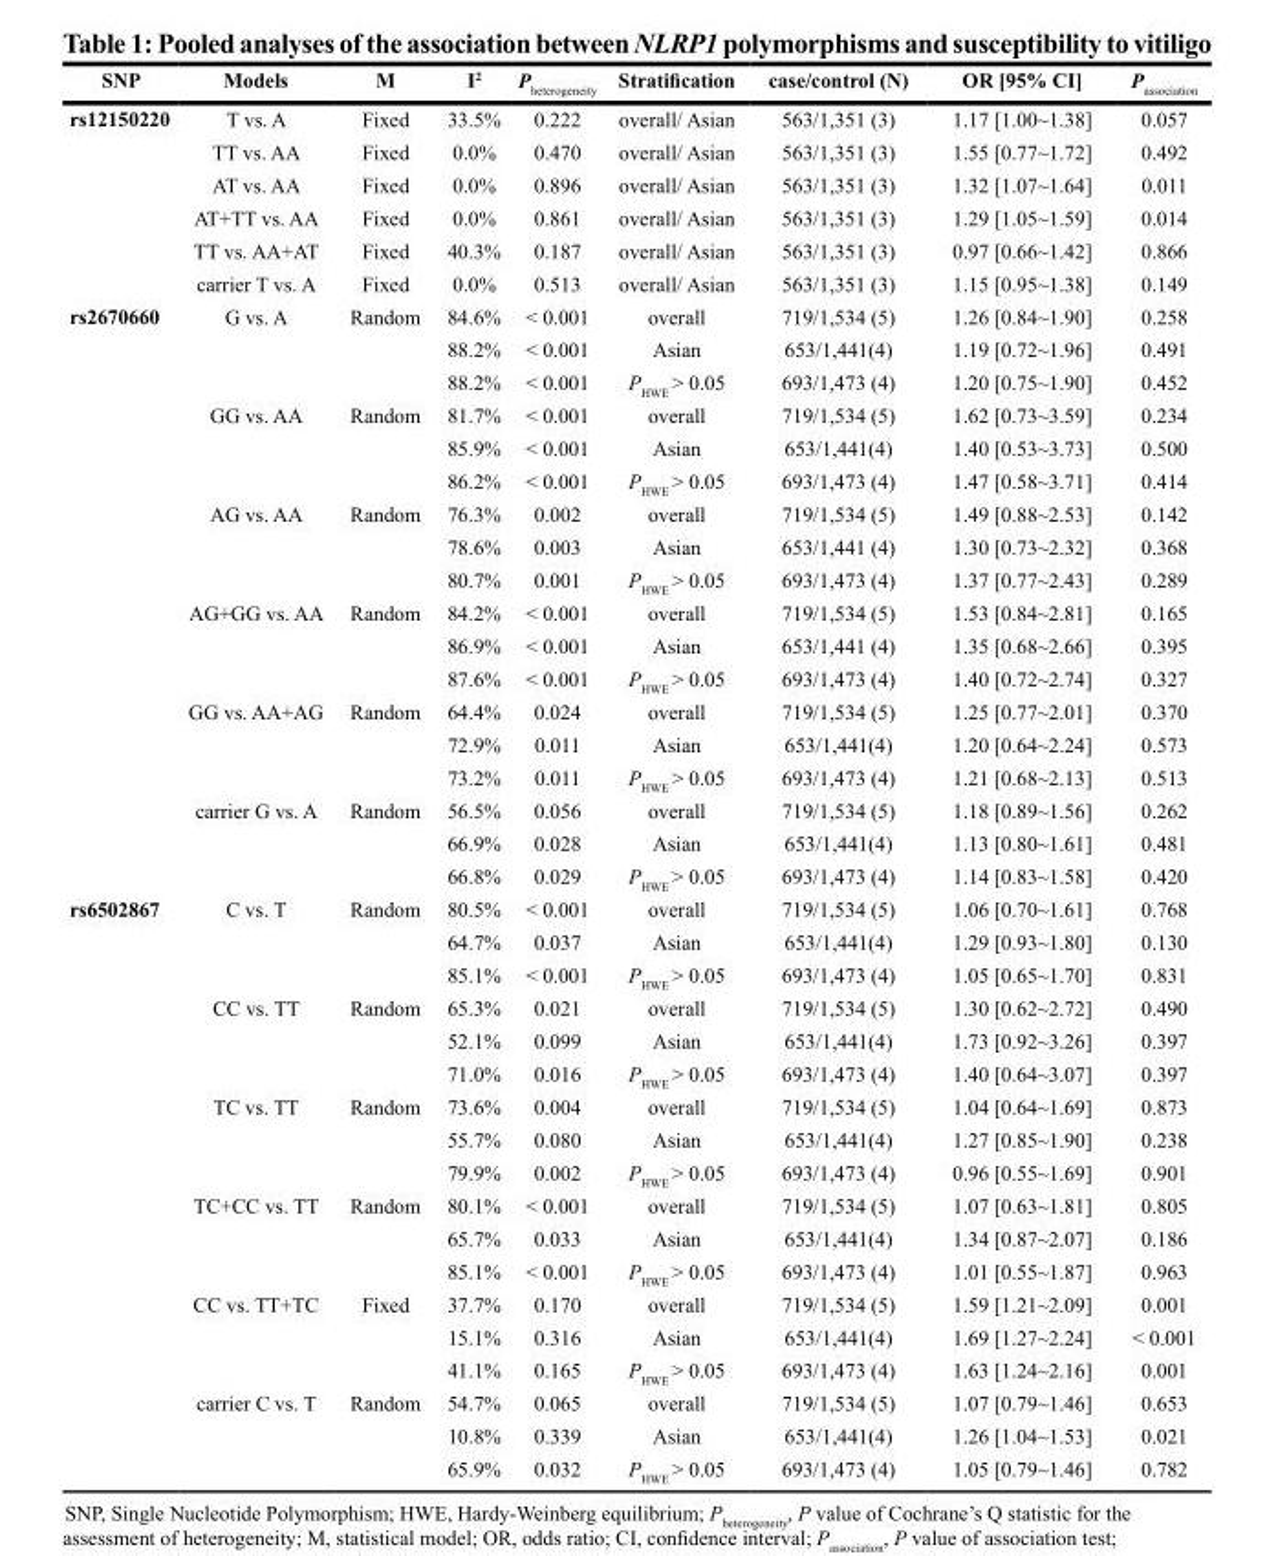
<table><thead><tr><td>SNP</td><td>Models</td><td>M</td><td>I<sup>2</sup></td><td>P<sub>heterogeneity</sub></td><td>Stratification</td><td>case/control (N)</td><td>OR [95% CI]</td><td>P<sub>association</sub></td></tr></thead><tbody><tr><td rowspan="6">rs12150220</td><td>T vs. A</td><td>Fixed</td><td>33.5%</td><td>0.222</td><td>overall/ Asian</td><td>563/1,351 (3)</td><td>1.17 [1.00~1.38]</td><td>0.057</td></tr><tr><td>TT vs. AA</td><td>Fixed</td><td>0.0%</td><td>0.470</td><td>overall/ Asian</td><td>563/1,351 (3)</td><td>1.55 [0.77~1.72]</td><td>0.492</td></tr><tr><td>AT vs. AA</td><td>Fixed</td><td>0.0%</td><td>0.896</td><td>overall/ Asian</td><td>563/1,351 (3)</td><td>1.32 [1.07~1.64]</td><td>0.011</td></tr><tr><td>AT+TT vs. AA</td><td>Fixed</td><td>0.0%</td><td>0.861</td><td>overall/ Asian</td><td>563/1,351 (3)</td><td>1.29 [1.05~1.59]</td><td>0.014</td></tr><tr><td>TT vs. AA+AT</td><td>Fixed</td><td>40.3%</td><td>0.187</td><td>overall/ Asian</td><td>563/1,351 (3)</td><td>0.97 [0.66~1.42]</td><td>0.866</td></tr><tr><td>carrier T vs. A</td><td>Fixed</td><td>0.0%</td><td>0.513</td><td>overall/ Asian</td><td>563/1,351 (3)</td><td>1.15 [0.95~1.38]</td><td>0.149</td></tr><tr><td rowspan="18">rs2670660</td><td>G vs. A</td><td>Random</td><td>84.6%</td><td>&lt; 0.001</td><td>overall</td><td>719/1,534 (5)</td><td>1.26 [0.84~1.90]</td><td>0.258</td></tr><tr><td></td><td></td><td>88.2%</td><td>&lt; 0.001</td><td>Asian</td><td>653/1,441(4)</td><td>1.19 [0.72~1.96]</td><td>0.491</td></tr><tr><td></td><td></td><td>88.2%</td><td>&lt; 0.001</td><td>P<sub>HWE</sub> &gt; 0.05</td><td>693/1,473 (4)</td><td>1.20 [0.75~1.90]</td><td>0.452</td></tr><tr><td>GG vs. AA</td><td>Random</td><td>81.7%</td><td>&lt; 0.001</td><td>overall</td><td>719/1,534 (5)</td><td>1.62 [0.73~3.59]</td><td>0.234</td></tr><tr><td></td><td></td><td>85.9%</td><td>&lt; 0.001</td><td>Asian</td><td>653/1,441(4)</td><td>1.40 [0.53~3.73]</td><td>0.500</td></tr><tr><td></td><td></td><td>86.2%</td><td>&lt; 0.001</td><td>P<sub>HWE</sub> &gt; 0.05</td><td>693/1,473 (4)</td><td>1.47 [0.58~3.71]</td><td>0.414</td></tr><tr><td>AG vs. AA</td><td>Random</td><td>76.3%</td><td>0.002</td><td>overall</td><td>719/1,534 (5)</td><td>1.49 [0.88~2.53]</td><td>0.142</td></tr><tr><td></td><td></td><td>78.6%</td><td>0.003</td><td>Asian</td><td>653/1,441 (4)</td><td>1.30 [0.73~2.32]</td><td>0.368</td></tr><tr><td></td><td></td><td>80.7%</td><td>0.001</td><td>P<sub>HWE</sub> &gt; 0.05</td><td>693/1,473 (4)</td><td>1.37 [0.77~2.43]</td><td>0.289</td></tr><tr><td>AG+GG vs. AA</td><td>Random</td><td>84.2%</td><td>&lt; 0.001</td><td>overall</td><td>719/1,534 (5)</td><td>1.53 [0.84~2.81]</td><td>0.165</td></tr><tr><td></td><td></td><td>86.9%</td><td>&lt; 0.001</td><td>Asian</td><td>653/1,441 (4)</td><td>1.35 [0.68~2.66]</td><td>0.395</td></tr><tr><td></td><td></td><td>87.6%</td><td>&lt; 0.001</td><td>P<sub>HWE</sub> &gt; 0.05</td><td>693/1,473 (4)</td><td>1.40 [0.72~2.74]</td><td>0.327</td></tr><tr><td>GG vs. AA+AG</td><td>Random</td><td>64.4%</td><td>0.024</td><td>overall</td><td>719/1,534 (5)</td><td>1.25 [0.77~2.01]</td><td>0.370</td></tr><tr><td></td><td></td><td>72.9%</td><td>0.011</td><td>Asian</td><td>653/1,441(4)</td><td>1.20 [0.64~2.24]</td><td>0.573</td></tr><tr><td></td><td></td><td>73.2%</td><td>0.011</td><td>P<sub>HWE</sub> &gt; 0.05</td><td>693/1,473 (4)</td><td>1.21 [0.68~2.13]</td><td>0.513</td></tr><tr><td>carrier G vs. A</td><td>Random</td><td>56.5%</td><td>0.056</td><td>overall</td><td>719/1,534 (5)</td><td>1.18 [0.89~1.56]</td><td>0.262</td></tr><tr><td></td><td></td><td>66.9%</td><td>0.028</td><td>Asian</td><td>653/1,441(4)</td><td>1.13 [0.80~1.61]</td><td>0.481</td></tr><tr><td></td><td></td><td>66.8%</td><td>0.029</td><td>P<sub>HWE</sub> &gt; 0.05</td><td>693/1,473 (4)</td><td>1.14 [0.83~1.58]</td><td>0.420</td></tr><tr><td rowspan="18">rs6502867</td><td>C vs. T</td><td>Random</td><td>80.5%</td><td>&lt; 0.001</td><td>overall</td><td>719/1,534 (5)</td><td>1.06 [0.70~1.61]</td><td>0.768</td></tr><tr><td></td><td></td><td>64.7%</td><td>0.037</td><td>Asian</td><td>653/1,441(4)</td><td>1.29 [0.93~1.80]</td><td>0.130</td></tr><tr><td></td><td></td><td>85.1%</td><td>&lt; 0.001</td><td>P<sub>HWE</sub> &gt; 0.05</td><td>693/1,473 (4)</td><td>1.05 [0.65~1.70]</td><td>0.831</td></tr><tr><td>CC vs. TT</td><td>Random</td><td>65.3%</td><td>0.021</td><td>overall</td><td>719/1,534 (5)</td><td>1.30 [0.62~2.72]</td><td>0.490</td></tr><tr><td></td><td></td><td>52.1%</td><td>0.099</td><td>Asian</td><td>653/1,441(4)</td><td>1.73 [0.92~3.26]</td><td>0.397</td></tr><tr><td></td><td></td><td>71.0%</td><td>0.016</td><td>P<sub>HWE</sub> &gt; 0.05</td><td>693/1,473 (4)</td><td>1.40 [0.64~3.07]</td><td>0.397</td></tr><tr><td>TC vs. TT</td><td>Random</td><td>73.6%</td><td>0.004</td><td>overall</td><td>719/1,534 (5)</td><td>1.04 [0.64~1.69]</td><td>0.873</td></tr><tr><td></td><td></td><td>55.7%</td><td>0.080</td><td>Asian</td><td>653/1,441(4)</td><td>1.27 [0.85~1.90]</td><td>0.238</td></tr><tr><td></td><td></td><td>79.9%</td><td>0.002</td><td>P<sub>HWE</sub> &gt; 0.05</td><td>693/1,473 (4)</td><td>0.96 [0.55~1.69]</td><td>0.901</td></tr><tr><td>TC+CC vs. TT</td><td>Random</td><td>80.1%</td><td>&lt; 0.001</td><td>overall</td><td>719/1,534 (5)</td><td>1.07 [0.63~1.81]</td><td>0.805</td></tr><tr><td></td><td></td><td>65.7%</td><td>0.033</td><td>Asian</td><td>653/1,441(4)</td><td>1.34 [0.87~2.07]</td><td>0.186</td></tr><tr><td></td><td></td><td>85.1%</td><td>&lt; 0.001</td><td>P<sub>HWE</sub> &gt; 0.05</td><td>693/1,473 (4)</td><td>1.01 [0.55~1.87]</td><td>0.963</td></tr><tr><td>CC vs. TT+TC</td><td>Fixed</td><td>37.7%</td><td>0.170</td><td>overall</td><td>719/1,534 (5)</td><td>1.59 [1.21~2.09]</td><td>0.001</td></tr><tr><td></td><td></td><td>15.1%</td><td>0.316</td><td>Asian</td><td>653/1,441(4)</td><td>1.69 [1.27~2.24]</td><td>&lt; 0.001</td></tr><tr><td></td><td></td><td>41.1%</td><td>0.165</td><td>P<sub>HWE</sub> &gt; 0.05</td><td>693/1,473 (4)</td><td>1.63 [1.24~2.16]</td><td>0.001</td></tr><tr><td>carrier C vs. T</td><td>Random</td><td>54.7%</td><td>0.065</td><td>overall</td><td>719/1,534 (5)</td><td>1.07 [0.79~1.46]</td><td>0.653</td></tr><tr><td></td><td></td><td>10.8%</td><td>0.339</td><td>Asian</td><td>653/1,441(4)</td><td>1.26 [1.04~1.53]</td><td>0.021</td></tr><tr><td></td><td></td><td>65.9%</td><td>0.032</td><td>P<sub>HWE</sub> &gt; 0.05</td><td>693/1,473 (4)</td><td>1.05 [0.79~1.46]</td><td>0.782</td></tr></tbody></table>